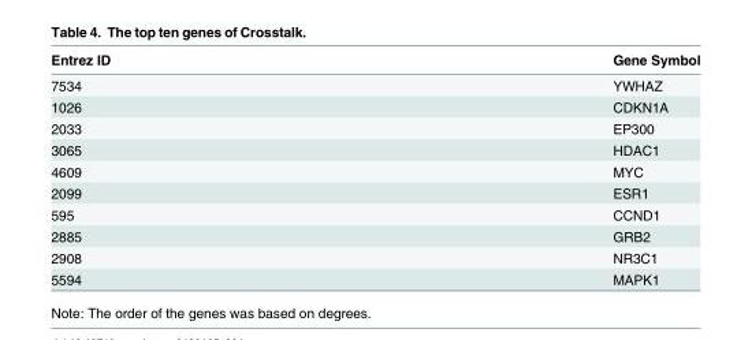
<table><thead><tr><td>Entrez ID</td><td>Gene Symbol</td></tr></thead><tbody><tr><td>7534</td><td>YWHAZ</td></tr><tr><td>1026</td><td>CDKN1A</td></tr><tr><td>2033</td><td>EP300</td></tr><tr><td>3065</td><td>HDAC1</td></tr><tr><td>4609</td><td>MYC</td></tr><tr><td>2099</td><td>ESR1</td></tr><tr><td>595</td><td>CCND1</td></tr><tr><td>2885</td><td>GRB2</td></tr><tr><td>2908</td><td>NR3C1</td></tr><tr><td>5594</td><td>MAPK1</td></tr></tbody></table>